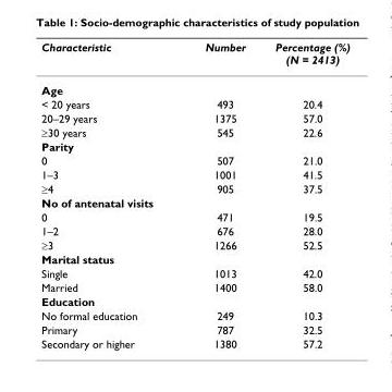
<table><thead><tr><td>Characteristic</td><td>Number</td><td>Percentage (%) (N = 2413)</td></tr></thead><tbody><tr><td colspan="3">Age</td></tr><tr><td>&lt; 20 years</td><td>493</td><td>20.4</td></tr><tr><td>20–29 years</td><td>1375</td><td>57.0</td></tr><tr><td>≥30 years</td><td>545</td><td>22.6</td></tr><tr><td colspan="3">Parity</td></tr><tr><td>0</td><td>507</td><td>21.0</td></tr><tr><td>1–3</td><td>1001</td><td>41.5</td></tr><tr><td>≥4</td><td>905</td><td>37.5</td></tr><tr><td colspan="3">No of antenatal visits</td></tr><tr><td>0</td><td>471</td><td>19.5</td></tr><tr><td>1–2</td><td>676</td><td>28.0</td></tr><tr><td>≥3</td><td>1266</td><td>52.5</td></tr><tr><td colspan="3">Marital status</td></tr><tr><td>Single</td><td>1013</td><td>42.0</td></tr><tr><td>Married</td><td>1400</td><td>58.0</td></tr><tr><td colspan="3">Education</td></tr><tr><td>No formal education</td><td>249</td><td>10.3</td></tr><tr><td>Primary</td><td>787</td><td>32.5</td></tr><tr><td>Secondary or higher</td><td>1380</td><td>57.2</td></tr></tbody></table>